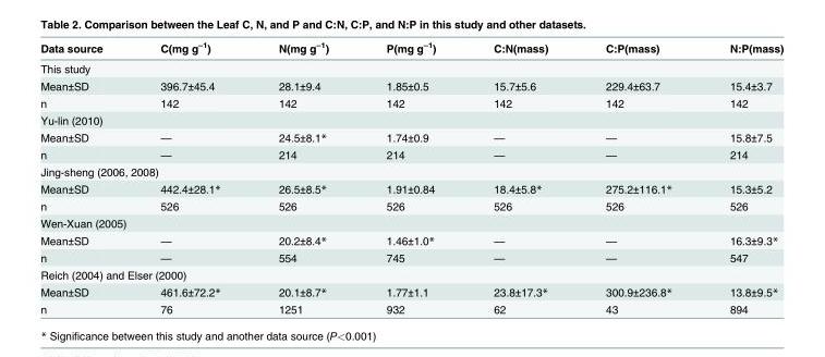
<table><thead><tr><td>Data source</td><td>C(mg g<sup>–1</sup>)</td><td>N(mg g<sup>–1</sup>)</td><td>P(mg g<sup>–1</sup>)</td><td>C:N(mass)</td><td>C:P(mass)</td><td>N:P(mass)</td></tr></thead><tbody><tr><td colspan="7">This study</td></tr><tr><td>Mean±SD</td><td>396.7±45.4</td><td>28.1±9.4</td><td>1.85±0.5</td><td>15.7±5.6</td><td>229.4±63.7</td><td>15.4±3.7</td></tr><tr><td>n</td><td>142</td><td>142</td><td>142</td><td>142</td><td>142</td><td>142</td></tr><tr><td colspan="7">Yu-lin (2010)</td></tr><tr><td>Mean±SD</td><td>—</td><td>24.5±8.1*</td><td>1.74±0.9</td><td>—</td><td>—</td><td>15.8±7.5</td></tr><tr><td>n</td><td>—</td><td>214</td><td>214</td><td>—</td><td>—</td><td>214</td></tr><tr><td colspan="7">Jing-sheng (2006, 2008)</td></tr><tr><td>Mean±SD</td><td>442.4±28.1*</td><td>26.5±8.5*</td><td>1.91±0.84</td><td>18.4±5.8*</td><td>275.2±116.1*</td><td>15.3±5.2</td></tr><tr><td>n</td><td>526</td><td>526</td><td>526</td><td>526</td><td>526</td><td>526</td></tr><tr><td colspan="7">Wen-Xuan (2005)</td></tr><tr><td>Mean±SD</td><td>—</td><td>20.2±8.4*</td><td>1.46±1.0*</td><td>—</td><td>—</td><td>16.3±9.3*</td></tr><tr><td>n</td><td>—</td><td>554</td><td>745</td><td>—</td><td>—</td><td>547</td></tr><tr><td colspan="7">Reich (2004) and Elser (2000)</td></tr><tr><td>Mean±SD</td><td>461.6±72.2*</td><td>20.1±8.7*</td><td>1.77±1.1</td><td>23.8±17.3*</td><td>300.9±236.8*</td><td>13.8±9.5*</td></tr><tr><td>n</td><td>76</td><td>1251</td><td>932</td><td>62</td><td>43</td><td>894</td></tr></tbody></table>